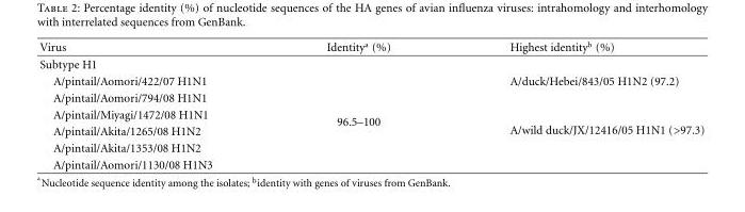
<table><thead><tr><td>Virus</td><td>Identity<sup>a</sup> (%)</td><td>Highest identity<sup>b</sup> (%)</td></tr></thead><tbody><tr><td colspan="3">Subtype H1</td></tr><tr><td>A/pintail/Aomori/422/07 H1N1</td><td rowspan="6">96.5–100</td><td>A/duck/Hebei/843/05 H1N2 (97.2)</td></tr><tr><td>A/pintail/Aomori/794/08 H1N1</td><td rowspan="5">A/wild duck/JX/12416/05 H1N1 (&gt;97.3)</td></tr><tr><td>A/pintail/Miyagi/1472/08 H1N1</td></tr><tr><td>A/pintail/Akita/1265/08 H1N2</td></tr><tr><td>A/pintail/Akita/1353/08 H1N2</td></tr><tr><td>A/pintail/Aomori/1130/08 H1N3</td></tr></tbody></table>